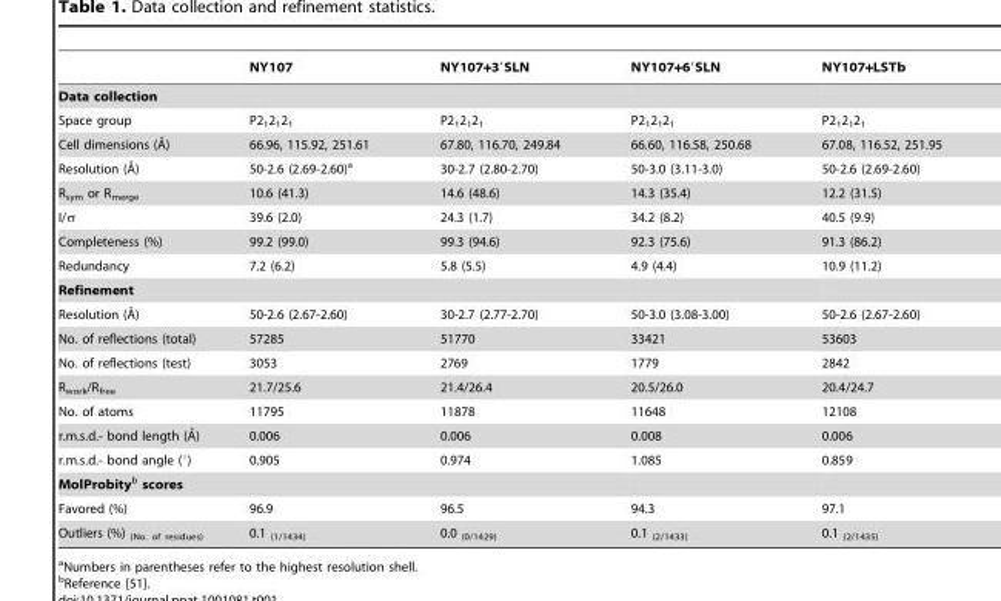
<table><thead><tr><td></td><td>NY107</td><td>NY107+3′SLN</td><td>NY107+6′SLN</td><td>NY107+LSTb</td></tr></thead><tbody><tr><td colspan="5">Data collection</td></tr><tr><td>Space group</td><td>P2<sub>1</sub>2<sub>1</sub>2<sub>1</sub></td><td>P2<sub>1</sub>2<sub>1</sub>2<sub>1</sub></td><td>P2<sub>1</sub>2<sub>1</sub>2<sub>1</sub></td><td>P2<sub>1</sub>2<sub>1</sub>2<sub>1</sub></td></tr><tr><td>Cell dimensions (A˚)</td><td>66.96, 115.92, 251.61</td><td>67.80, 116.70, 249.84</td><td>66.60, 116.58, 250.68</td><td>67.08, 116.52, 251.95</td></tr><tr><td>Resolution (A˚)</td><td>50-2.6 (2.69-2.60)<sup>a</sup></td><td>30-2.7 (2.80-2.70)</td><td>50-3.0 (3.11-3.0)</td><td>50-2.6 (2.69-2.60)</td></tr><tr><td>R<sub>sym</sub> or R<sub>merge</sub></td><td>10.6 (41.3)</td><td>14.6 (48.6)</td><td>14.3 (35.4)</td><td>12.2 (31.5)</td></tr><tr><td>I/σ</td><td>39.6 (2.0)</td><td>24.3 (1.7)</td><td>34.2 (8.2)</td><td>40.5 (9.9)</td></tr><tr><td>Completeness (%)</td><td>99.2 (99.0)</td><td>99.3 (94.6)</td><td>92.3 (75.6)</td><td>91.3 (86.2)</td></tr><tr><td>Redundancy</td><td>7.2 (6.2)</td><td>5.8 (5.5)</td><td>4.9 (4.4)</td><td>10.9 (11.2)</td></tr><tr><td colspan="5">Refinement</td></tr><tr><td>Resolution (A˚)</td><td>50-2.6 (2.67-2.60)</td><td>30-2.7 (2.77-2.70)</td><td>50-3.0 (3.08-3.00)</td><td>50-2.6 (2.67-2.60)</td></tr><tr><td>No. of reflections (total)</td><td>57285</td><td>51770</td><td>33421</td><td>53603</td></tr><tr><td>No. of reflections (test)</td><td>3053</td><td>2769</td><td>1779</td><td>2842</td></tr><tr><td>R<sub>work</sub>/R<sub>free</sub></td><td>21.7/25.6</td><td>21.4/26.4</td><td>20.5/26.0</td><td>20.4/24.7</td></tr><tr><td>No. of atoms</td><td>11795</td><td>11878</td><td>11648</td><td>12108</td></tr><tr><td>r.m.s.d.- bond length (A˚)</td><td>0.006</td><td>0.006</td><td>0.008</td><td>0.006</td></tr><tr><td>r.m.s.d.- bond angle (°)</td><td>0.905</td><td>0.974</td><td>1.085</td><td>0.859</td></tr><tr><td colspan="5">MolProbityb scores</td></tr><tr><td>Favored (%)</td><td>96.9</td><td>96.5</td><td>94.3</td><td>97.1</td></tr><tr><td>Outliers (%) <sub>(No. of residues)</sub></td><td>0.1 <sub>(1/1434)</sub></td><td>0.0 <sub>(0/1429)</sub></td><td>0.1 <sub>(2/1433)</sub></td><td>0.1 <sub>(2/1435)</sub></td></tr></tbody></table>